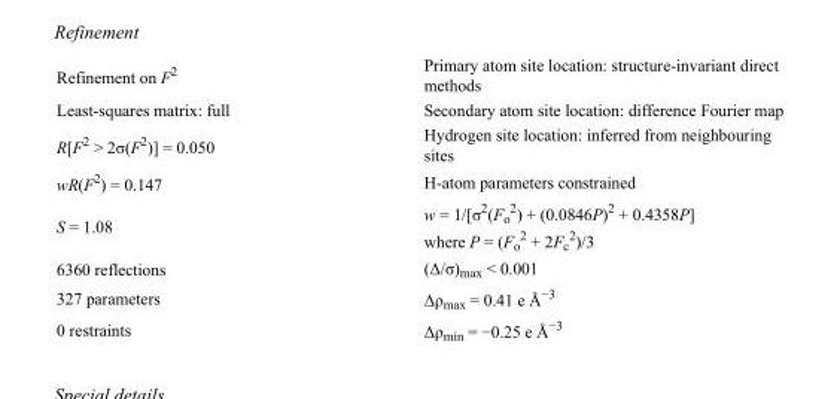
<table><tbody><tr><td>Refinement on F<sup>2</sup></td><td>Primary atom site location: structure-invariant direct methods</td></tr><tr><td>Least-squares matrix: full</td><td>Secondary atom site location: difference Fourier map</td></tr><tr><td>R[F<sup>2</sup> &gt; 2σ(F<sup>2</sup>)] = 0.050</td><td>Hydrogen site location: inferred from neighbouring sites</td></tr><tr><td>wR(F<sup>2</sup>) = 0.147</td><td>H-atom parameters constrained</td></tr><tr><td>S = 1.08</td><td>w = 1/[σ<sup>2</sup>(F<sub>o</sub> <sup>2</sup>) + (0.0846P)<sup>2</sup> + 0.4358P] where P = (F<sub>o</sub> <sup>2</sup> + 2F<sub>c</sub> <sup>2</sup>)/3</td></tr><tr><td>6360 reflections</td><td>(Δ/σ)<sub>max</sub> &lt; 0.001</td></tr><tr><td>327 parameters</td><td>Δρ<sub>max</sub> = 0.41 e Å<sup>−3</sup></td></tr><tr><td>0 restraints</td><td>Δρ<sub>min</sub> = −0.25 e Å<sup>−3</sup></td></tr></tbody></table>